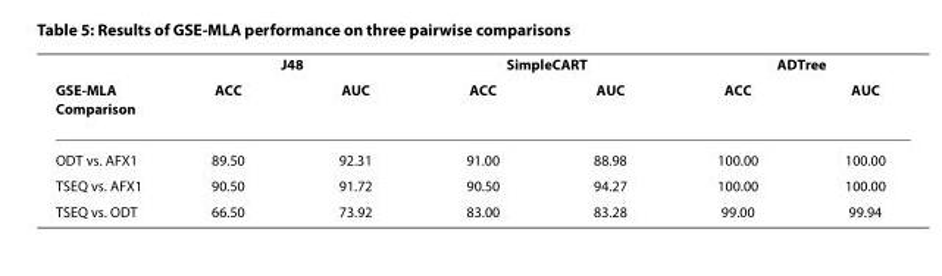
<table><thead><tr><td rowspan="2">GSE-MLA Comparison</td><td colspan="2">J48</td><td colspan="2">SimpleCART</td><td colspan="2">ADTree</td></tr><tr><td>ACC</td><td>AUC</td><td>ACC</td><td>AUC</td><td>ACC</td><td>AUC</td></tr></thead><tbody><tr><td>ODT vs. AFX1</td><td>89.50</td><td>92.31</td><td>91.00</td><td>88.98</td><td>100.00</td><td>100.00</td></tr><tr><td>TSEQ vs. AFX1</td><td>90.50</td><td>91.72</td><td>90.50</td><td>94.27</td><td>100.00</td><td>100.00</td></tr><tr><td>TSEQ vs. ODT</td><td>66.50</td><td>73.92</td><td>83.00</td><td>83.28</td><td>99.00</td><td>99.94</td></tr></tbody></table>